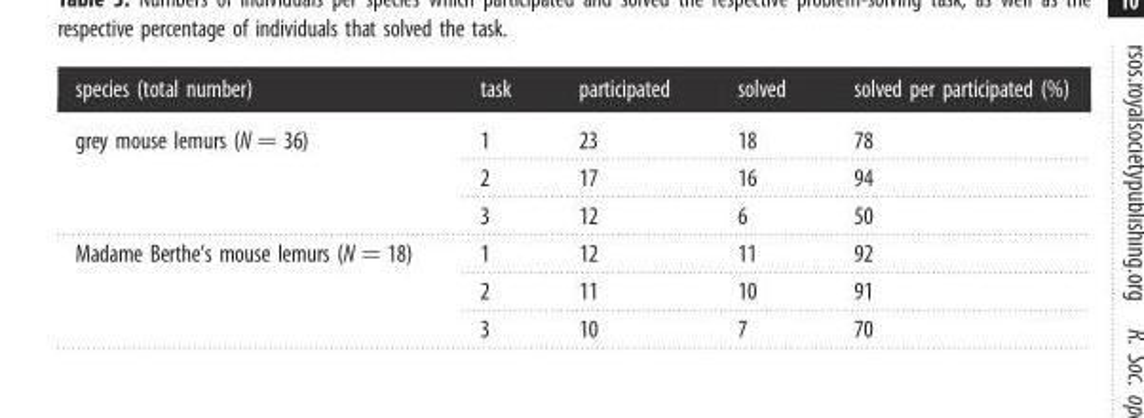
<table><thead><tr><td>species (total number)</td><td>task</td><td>participated</td><td>solved</td><td>solved per participated (%)</td></tr></thead><tbody><tr><td rowspan="3">grey mouse lemurs (N = 36)</td><td>1</td><td>23</td><td>18</td><td>78</td></tr><tr><td>2</td><td>17</td><td>16</td><td>94</td></tr><tr><td>3</td><td>12</td><td>6</td><td>50</td></tr><tr><td rowspan="3">Madame Berthe’s mouse lemurs (N = 18)</td><td>1</td><td>12</td><td>11</td><td>92</td></tr><tr><td>2</td><td>11</td><td>10</td><td>91</td></tr><tr><td>3</td><td>10</td><td>7</td><td>70</td></tr></tbody></table>